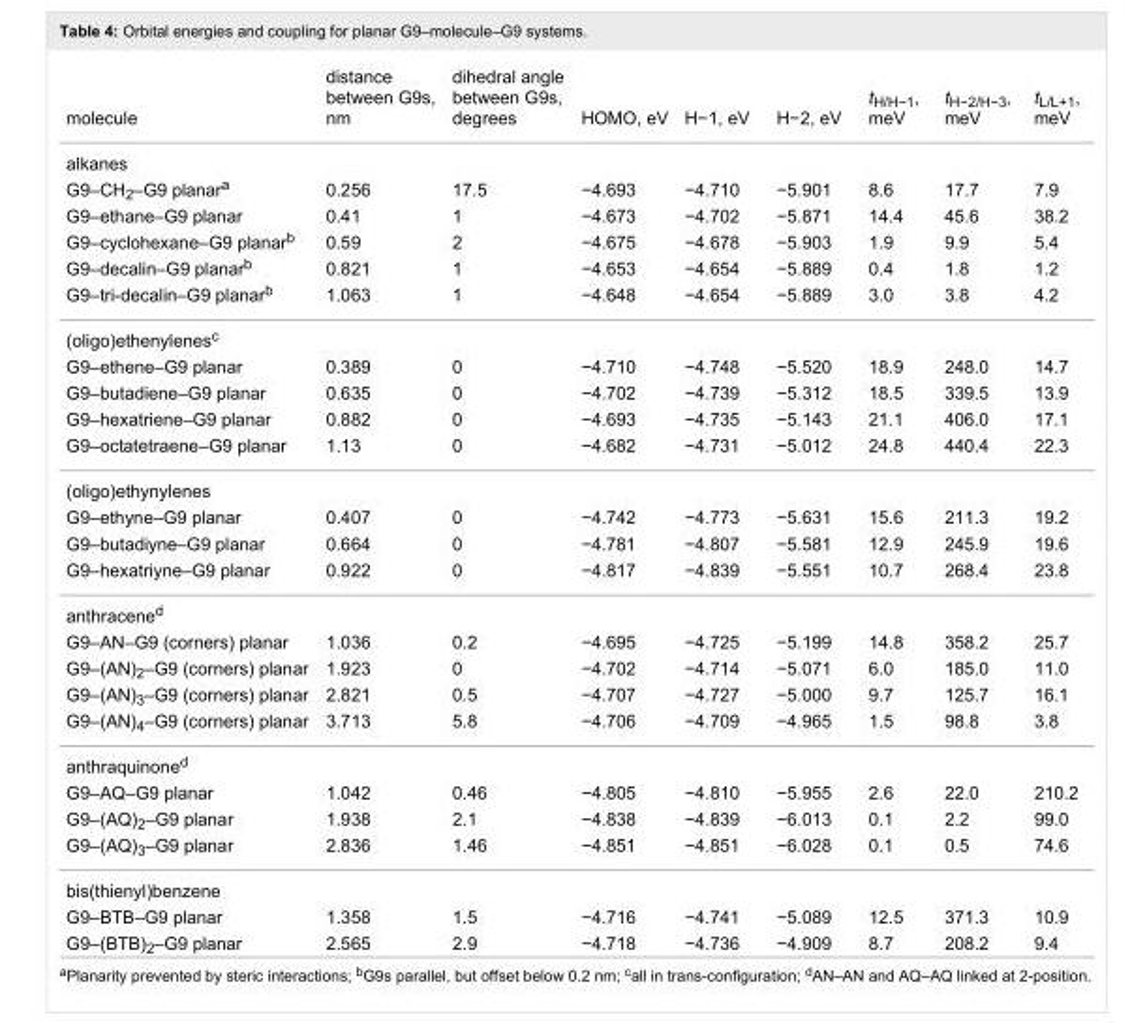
<table><tbody><tr><td>molecule</td><td>distance between G9s, nm</td><td>dihedral angle between G9s, degrees</td><td>HOMO, eV</td><td>H−1, eV</td><td>H−2, eV</td><td>t<sub>H/H−1</sub>, meV</td><td>t<sub>H−2/H−3</sub>, meV</td><td>t<sub>L/L+1</sub>, meV</td></tr><tr><td colspan="9">alkanes</td></tr><tr><td>G9–CH<sub>2</sub>–G9 planar<sup>a</sup></td><td>0.256</td><td>17.5</td><td>−4.693</td><td>−4.710</td><td>−5.901</td><td>8.6</td><td>17.7</td><td>7.9</td></tr><tr><td>G9–ethane–G9 planar</td><td>0.41</td><td>1</td><td>−4.673</td><td>−4.702</td><td>−5.871</td><td>14.4</td><td>45.6</td><td>38.2</td></tr><tr><td>G9–cyclohexane–G9 planar<sup>b</sup></td><td>0.59</td><td>2</td><td>−4.675</td><td>−4.678</td><td>−5.903</td><td>1.9</td><td>9.9</td><td>5.4</td></tr><tr><td>G9–decalin–G9 planar<sup>b</sup></td><td>0.821</td><td>1</td><td>−4.653</td><td>−4.654</td><td>−5.889</td><td>0.4</td><td>1.8</td><td>1.2</td></tr><tr><td>G9–tri-decalin–G9 planar<sup>b</sup></td><td>1.063</td><td>1</td><td>−4.648</td><td>−4.654</td><td>−5.889</td><td>3.0</td><td>3.8</td><td>4.2</td></tr><tr><td colspan="9">(oligo)ethenylenes<sup>c</sup></td></tr><tr><td>G9–ethene–G9 planar</td><td>0.389</td><td>0</td><td>−4.710</td><td>−4.748</td><td>−5.520</td><td>18.9</td><td>248.0</td><td>14.7</td></tr><tr><td>G9–butadiene–G9 planar</td><td>0.635</td><td>0</td><td>−4.702</td><td>−4.739</td><td>−5.312</td><td>18.5</td><td>339.5</td><td>13.9</td></tr><tr><td>G9–hexatriene–G9 planar</td><td>0.882</td><td>0</td><td>−4.693</td><td>−4.735</td><td>−5.143</td><td>21.1</td><td>406.0</td><td>17.1</td></tr><tr><td>G9–octatetraene–G9 planar</td><td>1.13</td><td>0</td><td>−4.682</td><td>−4.731</td><td>−5.012</td><td>24.8</td><td>440.4</td><td>22.3</td></tr><tr><td colspan="9">(oligo)ethynylenes</td></tr><tr><td>G9–ethyne–G9 planar</td><td>0.407</td><td>0</td><td>−4.742</td><td>−4.773</td><td>−5.631</td><td>15.6</td><td>211.3</td><td>19.2</td></tr><tr><td>G9–butadiyne–G9 planar</td><td>0.664</td><td>0</td><td>−4.781</td><td>−4.807</td><td>−5.581</td><td>12.9</td><td>245.9</td><td>19.6</td></tr><tr><td>G9–hexatriyne–G9 planar</td><td>0.922</td><td>0</td><td>−4.817</td><td>−4.839</td><td>−5.551</td><td>10.7</td><td>268.4</td><td>23.8</td></tr><tr><td colspan="9">anthracene<sup>d</sup></td></tr><tr><td>G9–AN–G9 (corners) planar</td><td>1.036</td><td>0.2</td><td>−4.695</td><td>−4.725</td><td>−5.199</td><td>14.8</td><td>358.2</td><td>25.7</td></tr><tr><td>G9–(AN)<sub>2</sub>–G9 (corners) planar</td><td>1.923</td><td>0</td><td>−4.702</td><td>−4.714</td><td>−5.071</td><td>6.0</td><td>185.0</td><td>11.0</td></tr><tr><td>G9–(AN)<sub>3</sub>–G9 (corners) planar</td><td>2.821</td><td>0.5</td><td>−4.707</td><td>−4.727</td><td>−5.000</td><td>9.7</td><td>125.7</td><td>16.1</td></tr><tr><td>G9–(AN)<sub>4</sub>–G9 (corners) planar</td><td>3.713</td><td>5.8</td><td>−4.706</td><td>−4.709</td><td>−4.965</td><td>1.5</td><td>98.8</td><td>3.8</td></tr><tr><td colspan="9">anthraquinone<sup>d</sup></td></tr><tr><td>G9–AQ–G9 planar</td><td>1.042</td><td>0.46</td><td>−4.805</td><td>−4.810</td><td>−5.955</td><td>2.6</td><td>22.0</td><td>210.2</td></tr><tr><td>G9–(AQ)<sub>2</sub>–G9 planar</td><td>1.938</td><td>2.1</td><td>−4.838</td><td>−4.839</td><td>−6.013</td><td>0.1</td><td>2.2</td><td>99.0</td></tr><tr><td>G9–(AQ)<sub>3</sub>–G9 planar</td><td>2.836</td><td>1.46</td><td>−4.851</td><td>−4.851</td><td>−6.028</td><td>0.1</td><td>0.5</td><td>74.6</td></tr><tr><td colspan="9">bis(thienyl)benzene</td></tr><tr><td>G9–BTB–G9 planar</td><td>1.358</td><td>1.5</td><td>−4.716</td><td>−4.741</td><td>−5.089</td><td>12.5</td><td>371.3</td><td>10.9</td></tr><tr><td>G9–(BTB)<sub>2</sub>–G9 planar</td><td>2.565</td><td>2.9</td><td>−4.718</td><td>−4.736</td><td>−4.909</td><td>8.7</td><td>208.2</td><td>9.4</td></tr></tbody></table>